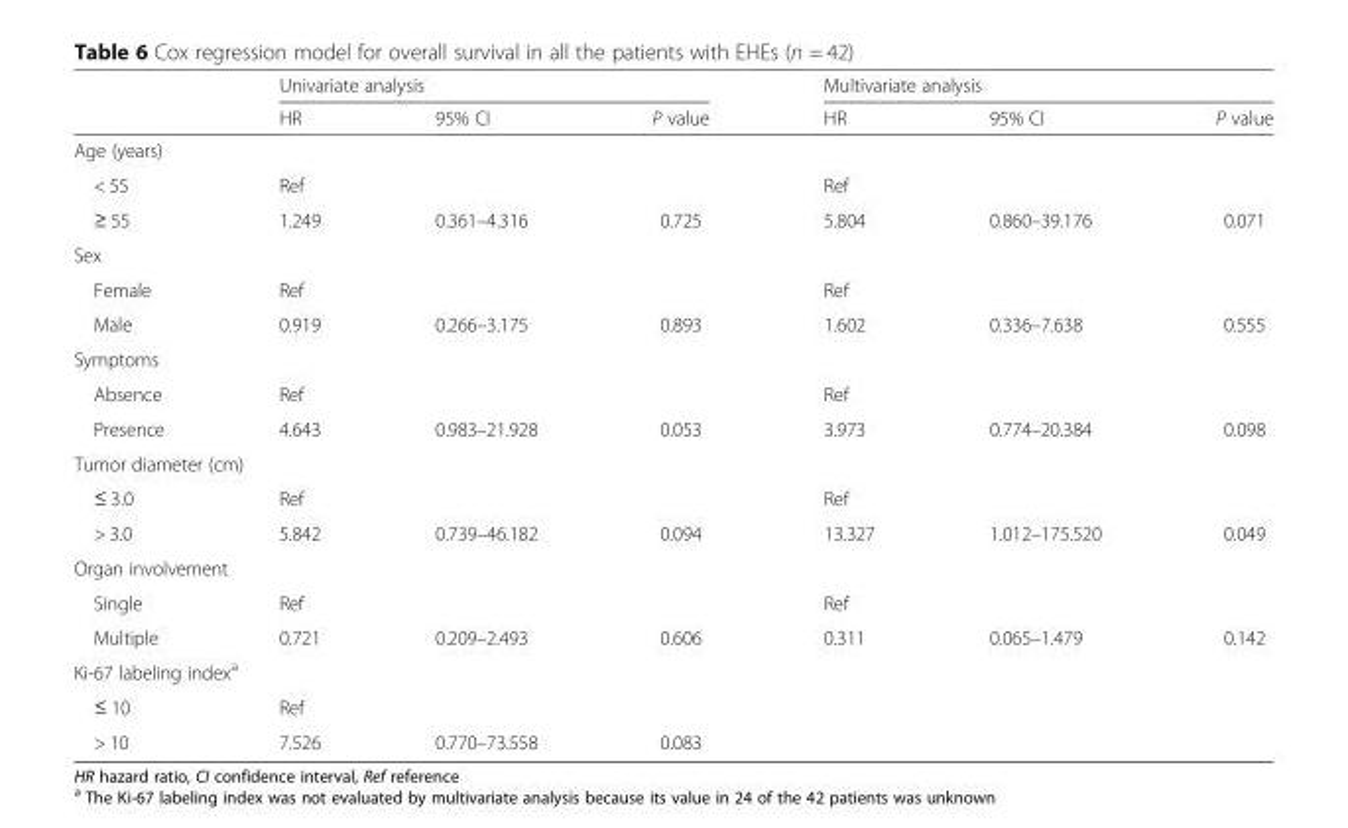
<table><thead><tr><td rowspan="2"></td><td colspan="3">Univariate analysis</td><td colspan="3">Multivariate analysis</td></tr><tr><td>HR</td><td>95% CI</td><td>P value</td><td>HR</td><td>95% CI</td><td>P value</td></tr></thead><tbody><tr><td colspan="7">Age (years)</td></tr><tr><td>&lt; 55</td><td>Ref</td><td></td><td></td><td>Ref</td><td></td><td></td></tr><tr><td>≥ 55</td><td>1.249</td><td>0.361–4.316</td><td>0.725</td><td>5.804</td><td>0.860–39.176</td><td>0.071</td></tr><tr><td colspan="7">Sex</td></tr><tr><td>Female</td><td>Ref</td><td></td><td></td><td>Ref</td><td></td><td></td></tr><tr><td>Male</td><td>0.919</td><td>0.266–3.175</td><td>0.893</td><td>1.602</td><td>0.336–7.638</td><td>0.555</td></tr><tr><td colspan="7">Symptoms</td></tr><tr><td>Absence</td><td>Ref</td><td></td><td></td><td>Ref</td><td></td><td></td></tr><tr><td>Presence</td><td>4.643</td><td>0.983–21.928</td><td>0.053</td><td>3.973</td><td>0.774–20.384</td><td>0.098</td></tr><tr><td colspan="7">Tumor diameter (cm)</td></tr><tr><td>≤ 3.0</td><td>Ref</td><td></td><td></td><td>Ref</td><td></td><td></td></tr><tr><td>&gt; 3.0</td><td>5.842</td><td>0.739–46.182</td><td>0.094</td><td>13.327</td><td>1.012–175.520</td><td>0.049</td></tr><tr><td colspan="7">Organ involvement</td></tr><tr><td>Single</td><td>Ref</td><td></td><td></td><td>Ref</td><td></td><td></td></tr><tr><td>Multiple</td><td>0.721</td><td>0.209–2.493</td><td>0.606</td><td>0.311</td><td>0.065–1.479</td><td>0.142</td></tr><tr><td colspan="7">Ki-67 labeling index<sup>a</sup></td></tr><tr><td>≤ 10</td><td>Ref</td><td></td><td></td><td></td><td></td><td></td></tr><tr><td>&gt; 10</td><td>7.526</td><td>0.770–73.558</td><td>0.083</td><td></td><td></td><td></td></tr></tbody></table>